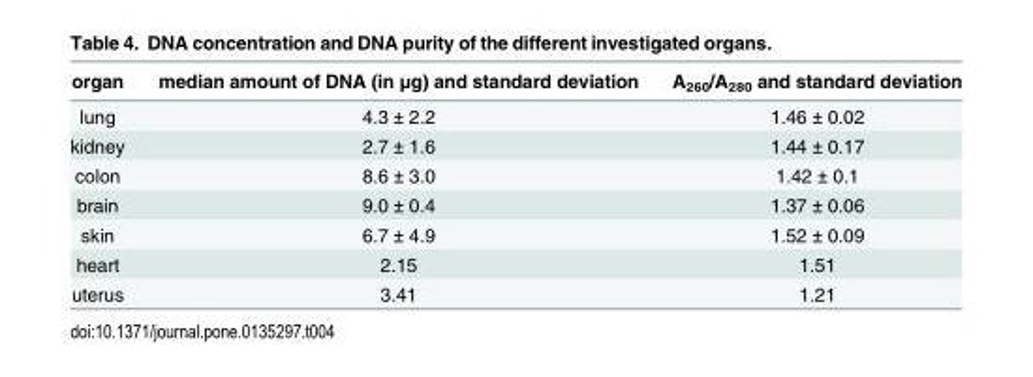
<table><thead><tr><td>organ</td><td>median amount of DNA (in μg) and standard deviation</td><td>A<sub>260</sub>/A<sub>280</sub> and standard deviation</td></tr></thead><tbody><tr><td>lung</td><td>4.3 ± 2.2</td><td>1.46 ± 0.02</td></tr><tr><td>kidney</td><td>2.7 ± 1.6</td><td>1.44 ± 0.17</td></tr><tr><td>colon</td><td>8.6 ± 3.0</td><td>1.42 ± 0.1</td></tr><tr><td>brain</td><td>9.0 ± 0.4</td><td>1.37 ± 0.06</td></tr><tr><td>skin</td><td>6.7 ± 4.9</td><td>1.52 ± 0.09</td></tr><tr><td>heart</td><td>2.15</td><td>1.51</td></tr><tr><td>uterus</td><td>3.41</td><td>1.21</td></tr></tbody></table>